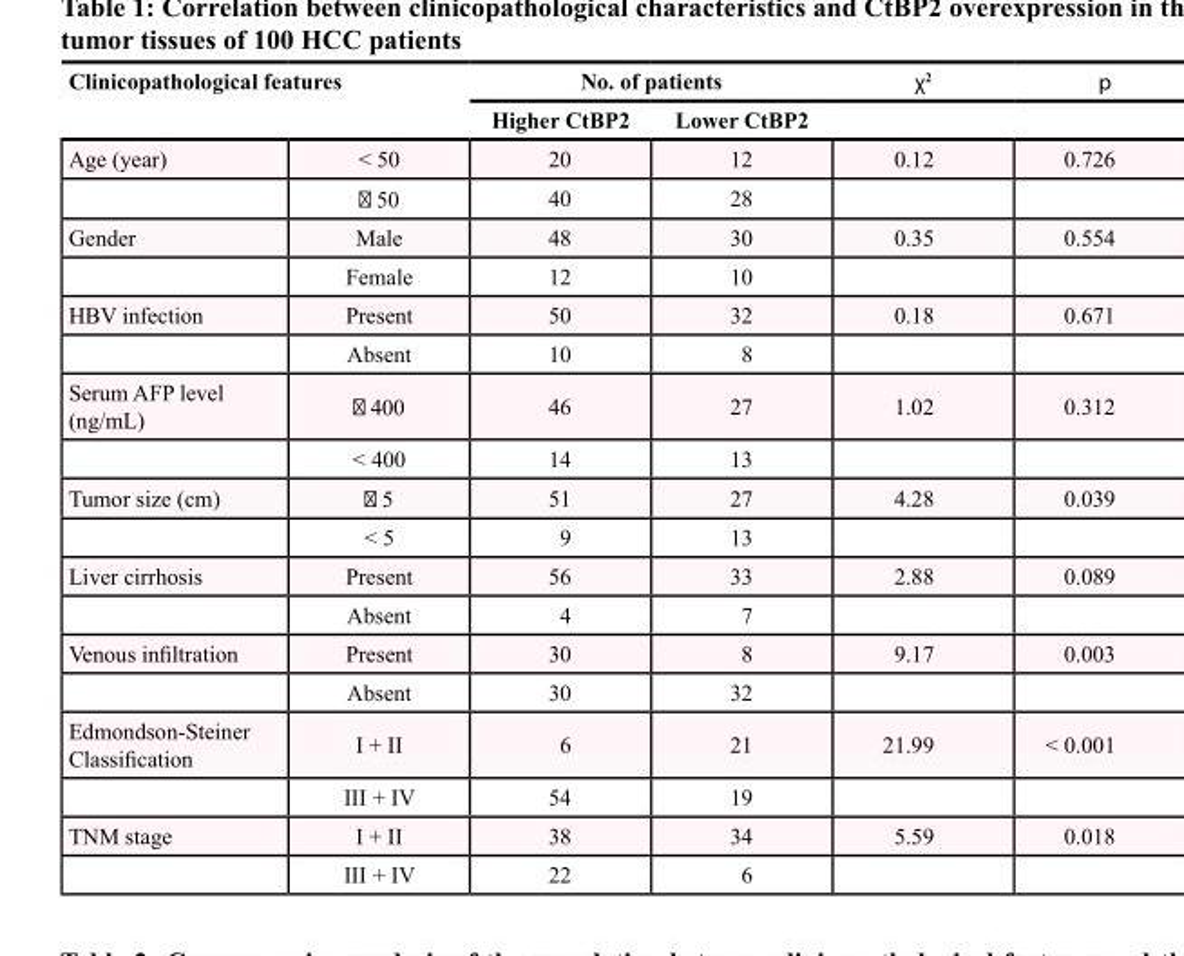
<table><thead><tr><td rowspan="2" colspan="2">Clinicopathological features</td><td colspan="2">No. of patients</td><td rowspan="3">χ2 0.12</td><td rowspan="3">p 0.726</td></tr><tr><td rowspan="2">Higher CtBP2 20</td><td rowspan="2">Lower CtBP2 12</td></tr><tr><td>Age (year)</td><td>&lt; 50</td></tr></thead><tbody><tr><td></td><td>≧ 50</td><td>40</td><td>28</td><td></td><td></td></tr><tr><td rowspan="2">Gender</td><td>Male</td><td>48</td><td>30</td><td>0.35</td><td>0.554</td></tr><tr><td>Female</td><td>12</td><td>10</td><td></td><td></td></tr><tr><td rowspan="2">HBV infection</td><td>Present</td><td>50</td><td>32</td><td>0.18</td><td>0.671</td></tr><tr><td>Absent</td><td>10</td><td>8</td><td></td><td></td></tr><tr><td rowspan="2">Serum AFP level (ng/mL)</td><td>≧ 400</td><td>46</td><td>27</td><td>1.02</td><td>0.312</td></tr><tr><td>&lt; 400</td><td>14</td><td>13</td><td></td><td></td></tr><tr><td rowspan="2">Tumor size (cm)</td><td>≧ 5</td><td>51</td><td>27</td><td>4.28</td><td>0.039</td></tr><tr><td>&lt; 5</td><td>9</td><td>13</td><td></td><td></td></tr><tr><td rowspan="2">Liver cirrhosis</td><td>Present</td><td>56</td><td>33</td><td>2.88</td><td>0.089</td></tr><tr><td>Absent</td><td>4</td><td>7</td><td></td><td></td></tr><tr><td rowspan="2">Venous infiltration</td><td>Present</td><td>30</td><td>8</td><td>9.17</td><td>0.003</td></tr><tr><td>Absent</td><td>30</td><td>32</td><td></td><td></td></tr><tr><td rowspan="2">Edmondson-Steiner Classification</td><td>I + II</td><td>6</td><td>21</td><td>21.99</td><td>&lt; 0.001</td></tr><tr><td>III + IV</td><td>54</td><td>19</td><td></td><td></td></tr><tr><td rowspan="2">TNM stage</td><td>I + II</td><td>38</td><td>34</td><td>5.59</td><td>0.018</td></tr><tr><td>III + IV</td><td>22</td><td>6</td><td></td><td></td></tr></tbody></table>